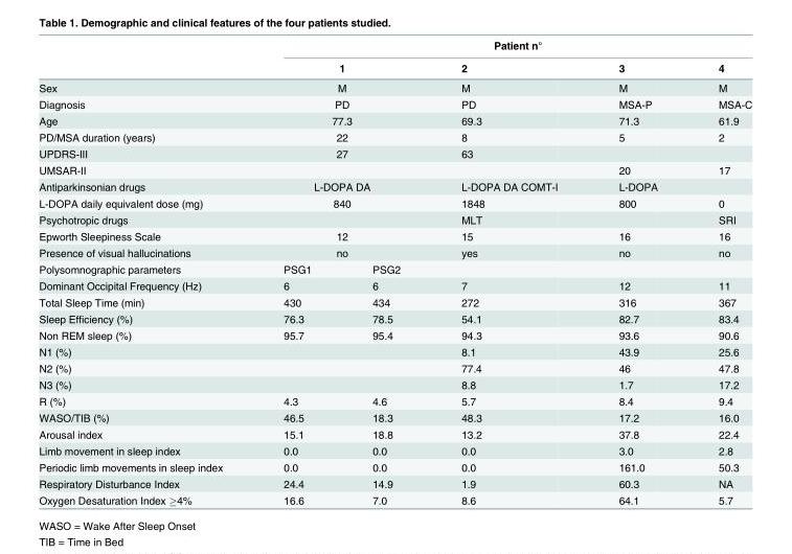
<table><thead><tr><td rowspan="2"></td><td colspan="5">Patient n°</td></tr><tr><td colspan="2">1</td><td>2</td><td>3</td><td>4</td></tr></thead><tbody><tr><td>Sex</td><td colspan="2">M</td><td>M</td><td>M</td><td>M</td></tr><tr><td>Diagnosis</td><td colspan="2">PD</td><td>PD</td><td>MSA-P</td><td>MSA-C</td></tr><tr><td>Age</td><td colspan="2">77.3</td><td>69.3</td><td>71.3</td><td>61.9</td></tr><tr><td>PD/MSA duration (years)</td><td colspan="2">22</td><td>8</td><td>5</td><td>2</td></tr><tr><td>UPDRS-III</td><td colspan="2">27</td><td>63</td><td></td><td></td></tr><tr><td>UMSAR-II</td><td colspan="2"></td><td></td><td>20</td><td>17</td></tr><tr><td>Antiparkinsonian drugs</td><td colspan="2">L-DOPA DA</td><td>L-DOPA DA COMT-I</td><td>L-DOPA</td><td></td></tr><tr><td>L-DOPA daily equivalent dose (mg)</td><td colspan="2">840</td><td>1848</td><td>800</td><td>0</td></tr><tr><td>Psychotropic drugs</td><td colspan="2"></td><td>MLT</td><td></td><td>SRI</td></tr><tr><td>Epworth Sleepiness Scale</td><td colspan="2">12</td><td>15</td><td>16</td><td>16</td></tr><tr><td>Presence of visual hallucinations</td><td colspan="2">no</td><td>yes</td><td>no</td><td>no</td></tr><tr><td>Polysomnographic parameters</td><td>PSG1</td><td>PSG2</td><td></td><td></td><td></td></tr><tr><td>Dominant Occipital Frequency (Hz)</td><td>6</td><td>6</td><td>7</td><td>12</td><td>11</td></tr><tr><td>Total Sleep Time (min)</td><td>430</td><td>434</td><td>272</td><td>316</td><td>367</td></tr><tr><td>Sleep Efficiency (%)</td><td>76.3</td><td>78.5</td><td>54.1</td><td>82.7</td><td>83.4</td></tr><tr><td>Non REM sleep (%)</td><td>95.7</td><td>95.4</td><td>94.3</td><td>93.6</td><td>90.6</td></tr><tr><td>N1 (%)</td><td></td><td></td><td>8.1</td><td>43.9</td><td>25.6</td></tr><tr><td>N2 (%)</td><td></td><td></td><td>77.4</td><td>46</td><td>47.8</td></tr><tr><td>N3 (%)</td><td></td><td></td><td>8.8</td><td>1.7</td><td>17.2</td></tr><tr><td>R (%)</td><td>4.3</td><td>4.6</td><td>5.7</td><td>8.4</td><td>9.4</td></tr><tr><td>WASO/TIB (%)</td><td>46.5</td><td>18.3</td><td>48.3</td><td>17.2</td><td>16.0</td></tr><tr><td>Arousal index</td><td>15.1</td><td>18.8</td><td>13.2</td><td>37.8</td><td>22.4</td></tr><tr><td>Limb movement in sleep index</td><td>0.0</td><td>0.0</td><td>0.0</td><td>3.0</td><td>2.8</td></tr><tr><td>Periodic limb movements in sleep index</td><td>0.0</td><td>0.0</td><td>0.0</td><td>161.0</td><td>50.3</td></tr><tr><td>Respiratory Disturbance Index</td><td>24.4</td><td>14.9</td><td>1.9</td><td>60.3</td><td>NA</td></tr><tr><td>Oxygen Desaturation Index ≥4%</td><td>16.6</td><td>7.0</td><td>8.6</td><td>64.1</td><td>5.7</td></tr></tbody></table>